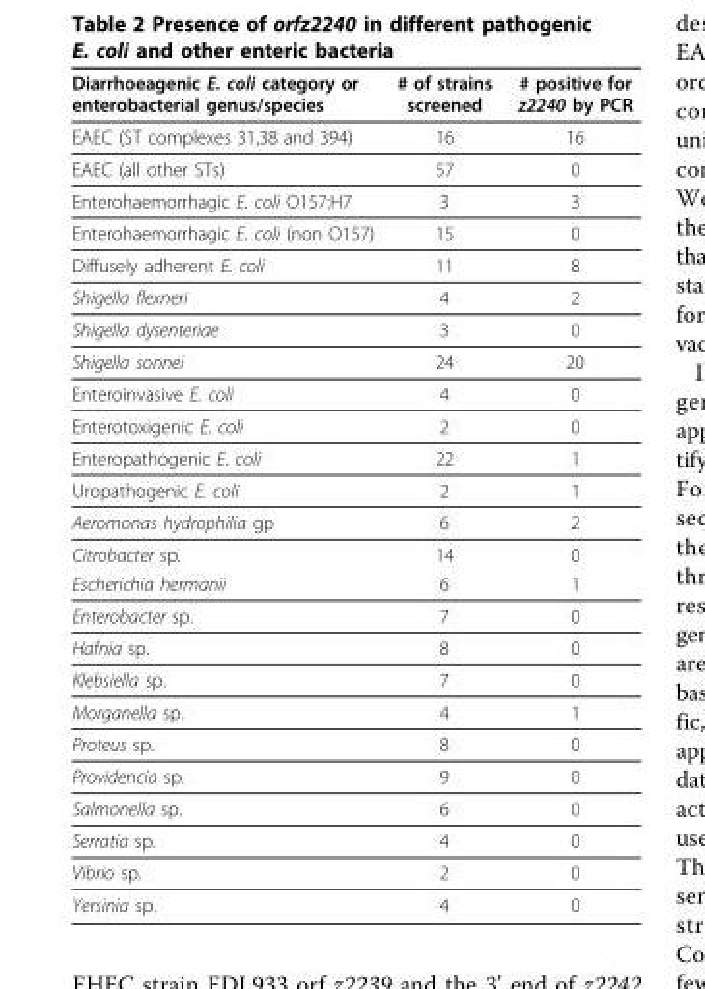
<table><thead><tr><td>Diarrhoeagenic E. coli category or enterobacterial genus/species</td><td># of strains screened</td><td># positive for z2240 by PCR</td></tr></thead><tbody><tr><td>EAEC (ST complexes 31,38 and 394)</td><td>16</td><td>16</td></tr><tr><td>EAEC (all other STs)</td><td>57</td><td>0</td></tr><tr><td>Enterohaemorrhagic E. coli O157:H7</td><td>3</td><td>3</td></tr><tr><td>Enterohaemorrhagic E. coli (non O157)</td><td>15</td><td>0</td></tr><tr><td>Diffusely adherent E. coli</td><td>11</td><td>8</td></tr><tr><td>Shigella flexneri</td><td>4</td><td>2</td></tr><tr><td>Shigella dysenteriae</td><td>3</td><td>0</td></tr><tr><td>Shigella sonnei</td><td>24</td><td>20</td></tr><tr><td>Enteroinvasive E. coli</td><td>4</td><td>0</td></tr><tr><td>Enterotoxigenic E. coli</td><td>2</td><td>0</td></tr><tr><td>Enteropathogenic E. coli</td><td>22</td><td>1</td></tr><tr><td>Uropathogenic E. coli</td><td>2</td><td>1</td></tr><tr><td>Aeromonas hydrophilia gp</td><td>6</td><td>2</td></tr><tr><td>Citrobacter sp.</td><td>14</td><td>0</td></tr><tr><td>Escherichia hermanii</td><td>6</td><td>1</td></tr><tr><td>Enterobacter sp.</td><td>7</td><td>0</td></tr><tr><td>Hafnia sp.</td><td>8</td><td>0</td></tr><tr><td>Klebsiella sp.</td><td>7</td><td>0</td></tr><tr><td>Morganella sp.</td><td>4</td><td>1</td></tr><tr><td>Proteus sp.</td><td>8</td><td>0</td></tr><tr><td>Providencia sp.</td><td>9</td><td>0</td></tr><tr><td>Salmonella sp.</td><td>6</td><td>0</td></tr><tr><td>Serratia sp.</td><td>4</td><td>0</td></tr><tr><td>Vibrio sp.</td><td>2</td><td>0</td></tr><tr><td>Yersinia sp.</td><td>4</td><td>0</td></tr></tbody></table>